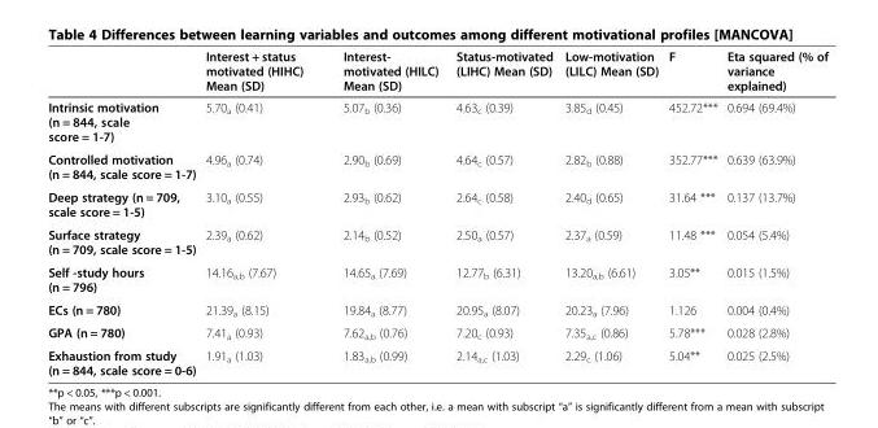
<table><thead><tr><td></td><td>Interest + status motivated (HIHC) Mean (SD)</td><td>Interest- motivated (HILC) Mean (SD)</td><td>Status-motivated (LIHC) Mean (SD)</td><td>Low-motivation (LILC) Mean (SD)</td><td>F</td><td>Eta squared (% of variance explained)</td></tr></thead><tbody><tr><td>Intrinsic motivation (n = 844, scale score = 1-7)</td><td>5.70<sub>a</sub> (0.41)</td><td>5.07<sub>b</sub> (0.36)</td><td>4.63<sub>c</sub> (0.39)</td><td>3.85<sub>d</sub> (0.45)</td><td>452.72***</td><td>0.694 (69.4%)</td></tr><tr><td>Controlled motivation (n = 844, scale score = 1-7)</td><td>4.96<sub>a</sub> (0.74)</td><td>2.90<sub>b</sub> (0.69)</td><td>4.64<sub>c</sub> (0.57)</td><td>2.82<sub>b</sub> (0.88)</td><td>352.77***</td><td>0.639 (63.9%)</td></tr><tr><td>Deep strategy (n = 709, scale score = 1-5)</td><td>3.10<sub>a</sub> (0.55)</td><td>2.93<sub>b</sub> (0.62)</td><td>2.64<sub>c</sub> (0.58)</td><td>2.40<sub>d</sub> (0.65)</td><td>31.64 ***</td><td>0.137 (13.7%)</td></tr><tr><td>Surface strategy (n = 709, scale score = 1-5)</td><td>2.39<sub>a</sub> (0.62)</td><td>2.14<sub>b</sub> (0.52)</td><td>2.50<sub>a</sub> (0.57)</td><td>2.37<sub>a</sub> (0.59)</td><td>11.48 ***</td><td>0.054 (5.4%)</td></tr><tr><td>Self -study hours (n = 796)</td><td>14.16<sub>a,b</sub> (7.67)</td><td>14.65<sub>a</sub> (7.69)</td><td>12.77<sub>b</sub> (6.31)</td><td>13.20<sub>a,b</sub> (6.61)</td><td>3.05**</td><td>0.015 (1.5%)</td></tr><tr><td>ECs (n = 780)</td><td>21.39<sub>a</sub> (8.15)</td><td>19.84<sub>a</sub> (8.77)</td><td>20.95<sub>a</sub> (8.07)</td><td>20.23<sub>a</sub> (7.96)</td><td>1.126</td><td>0.004 (0.4%)</td></tr><tr><td>GPA (n = 780)</td><td>7.41<sub>a</sub> (0.93)</td><td>7.62<sub>a,b</sub> (0.76)</td><td>7.20<sub>c</sub> (0.93)</td><td>7.35<sub>a,c</sub> (0.86)</td><td>5.78***</td><td>0.028 (2.8%)</td></tr><tr><td>Exhaustion from study (n = 844, scale score = 0-6)</td><td>1.91<sub>a</sub> (1.03)</td><td>1.83<sub>a,b</sub> (0.99)</td><td>2.14<sub>a,c</sub> (1.03)</td><td>2.29<sub>c</sub> (1.06)</td><td>5.04**</td><td>0.025 (2.5%)</td></tr></tbody></table>